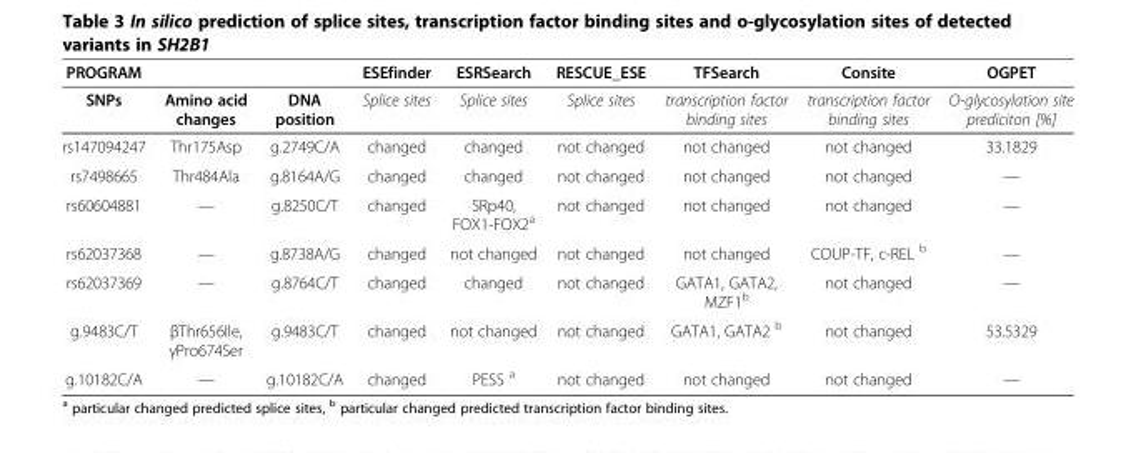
<table><thead><tr><td>PROGRAM</td><td></td><td></td><td>ESEfinder</td><td>ESRSearch</td><td>RESCUE_ESE</td><td>TFSearch</td><td>Consite</td><td>OGPET</td></tr></thead><tbody><tr><td>SNPs</td><td>Amino acid changes</td><td>DNA position</td><td>Splice sites</td><td>Splice sites</td><td>Splice sites</td><td>transcription factor binding sites</td><td>transcription factor binding sites</td><td>O-glycosylation site prediciton [%]</td></tr><tr><td>rs147094247</td><td>Thr175Asp</td><td>g.2749C/A</td><td>changed</td><td>changed</td><td>not changed</td><td>not changed</td><td>not changed</td><td>33.1829</td></tr><tr><td>rs7498665</td><td>Thr484Ala</td><td>g.8164A/G</td><td>changed</td><td>changed</td><td>not changed</td><td>not changed</td><td>not changed</td><td>—</td></tr><tr><td>rs60604881</td><td>—</td><td>g.8250C/T</td><td>changed</td><td>SRp40, FOX1-FOX2<sup>a</sup></td><td>not changed</td><td>not changed</td><td>not changed</td><td>—</td></tr><tr><td>rs62037368</td><td>—</td><td>g.8738A/G</td><td>changed</td><td>not changed</td><td>not changed</td><td>not changed</td><td>COUP-TF, c-REL <sup>b</sup></td><td>—</td></tr><tr><td>rs62037369</td><td>—</td><td>g.8764C/T</td><td>changed</td><td>changed</td><td>not changed</td><td>GATA1, GATA2, MZF1<sup>b</sup></td><td>not changed</td><td>—</td></tr><tr><td>g.9483C/T</td><td>βThr656Ile, γPro674Ser</td><td>g.9483C/T</td><td>changed</td><td>not changed</td><td>not changed</td><td>GATA1, GATA2 <sup>b</sup></td><td>not changed</td><td>53.5329</td></tr><tr><td>g.10182C/A</td><td>—</td><td>g.10182C/A</td><td>changed</td><td>PESS <sup>a</sup></td><td>not changed</td><td>not changed</td><td>not changed</td><td>—</td></tr></tbody></table>